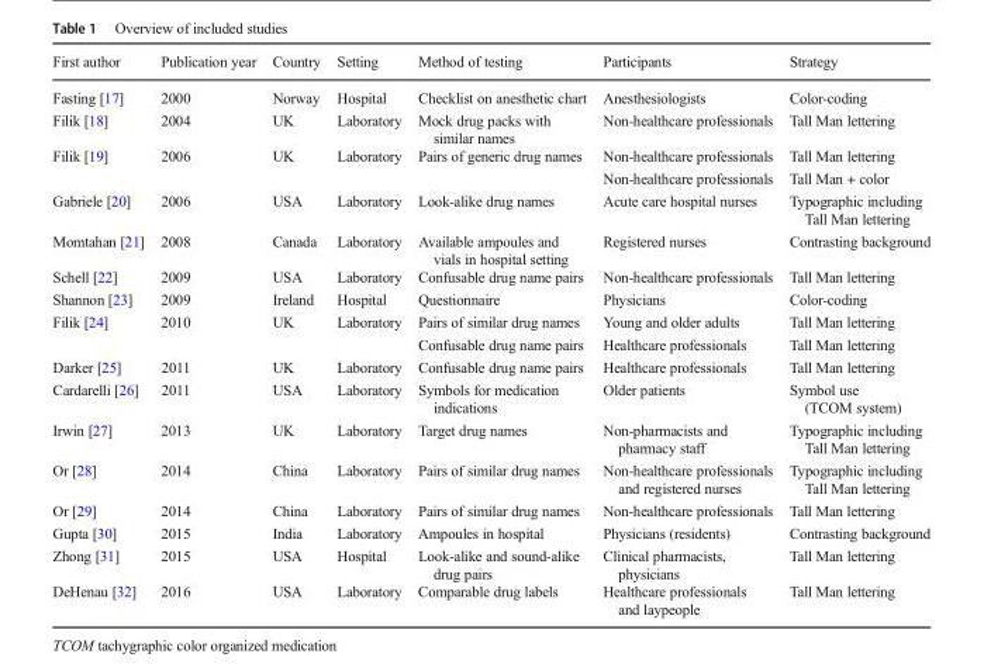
<table><thead><tr><td>First author</td><td>Publication year</td><td>Country</td><td>Setting</td><td>Method of testing</td><td>Participants</td><td>Strategy</td></tr></thead><tbody><tr><td>Fasting [17]</td><td>2000</td><td>Norway</td><td>Hospital</td><td>Checklist on anesthetic chart</td><td>Anesthesiologists</td><td>Color-coding</td></tr><tr><td>Filik [18]</td><td>2004</td><td>UK</td><td>Laboratory</td><td>Mock drug packs with similar names</td><td>Non-healthcare professionals</td><td>Tall Man lettering</td></tr><tr><td rowspan="2">Filik [19]</td><td rowspan="2">2006</td><td rowspan="2">UK</td><td rowspan="2">Laboratory</td><td rowspan="2">Pairs of generic drug names</td><td>Non-healthcare professionals</td><td>Tall Man lettering</td></tr><tr><td>Non-healthcare professionals</td><td>Tall Man + color</td></tr><tr><td>Gabriele [20]</td><td>2006</td><td>USA</td><td>Laboratory</td><td>Look-alike drug names</td><td>Acute care hospital nurses</td><td>Typographic including Tall Man lettering</td></tr><tr><td>Momtahan [21]</td><td>2008</td><td>Canada</td><td>Laboratory</td><td>Available ampoules and vials in hospital setting</td><td>Registered nurses</td><td>Contrasting background</td></tr><tr><td>Schell [22]</td><td>2009</td><td>USA</td><td>Laboratory</td><td>Confusable drug name pairs</td><td>Non-healthcare professionals</td><td>Tall Man lettering</td></tr><tr><td>Shannon [23]</td><td>2009</td><td>Ireland</td><td>Hospital</td><td>Questionnaire</td><td>Physicians</td><td>Color-coding</td></tr><tr><td rowspan="2">Filik [24]</td><td rowspan="2">2010</td><td rowspan="2">UK</td><td rowspan="2">Laboratory</td><td>Pairs of similar drug names</td><td>Young and older adults</td><td>Tall Man lettering</td></tr><tr><td>Confusable drug name pairs</td><td>Healthcare professionals</td><td>Tall Man lettering</td></tr><tr><td>Darker [25]</td><td>2011</td><td>UK</td><td>Laboratory</td><td>Confusable drug name pairs</td><td>Healthcare professionals</td><td>Tall Man lettering</td></tr><tr><td>Cardarelli [26]</td><td>2011</td><td>USA</td><td>Laboratory</td><td>Symbols for medication indications</td><td>Older patients</td><td>Symbol use (TCOM system)</td></tr><tr><td>Irwin [27]</td><td>2013</td><td>UK</td><td>Laboratory</td><td>Target drug names</td><td>Non-pharmacists and pharmacy staff</td><td>Typographic including Tall Man lettering</td></tr><tr><td>Or [28]</td><td>2014</td><td>China</td><td>Laboratory</td><td>Pairs of similar drug names</td><td>Non-healthcare professionals and registered nurses</td><td>Typographic including Tall Man lettering</td></tr><tr><td>Or [29]</td><td>2014</td><td>China</td><td>Laboratory</td><td>Pairs of similar drug names</td><td>Non-healthcare professionals</td><td>Tall Man lettering</td></tr><tr><td>Gupta [30]</td><td>2015</td><td>India</td><td>Laboratory</td><td>Ampoules in hospital</td><td>Physicians (residents)</td><td>Contrasting background</td></tr><tr><td>Zhong [31]</td><td>2015</td><td>USA</td><td>Hospital</td><td>Look-alike and sound-alike drug pairs</td><td>Clinical pharmacists, physicians</td><td>Tall Man lettering</td></tr><tr><td>DeHenau [32]</td><td>2016</td><td>USA</td><td>Laboratory</td><td>Comparable drug labels</td><td>Healthcare professionals and laypeople</td><td>Tall Man lettering</td></tr></tbody></table>